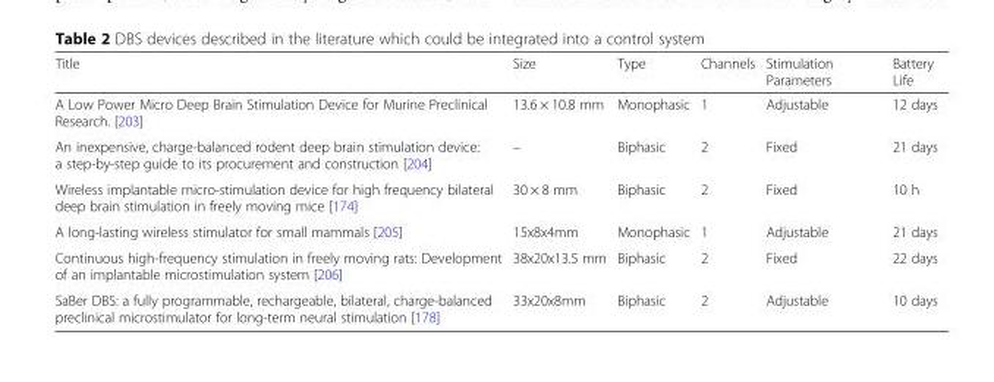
<table><thead><tr><td>Title</td><td>Size</td><td>Type</td><td>Channels</td><td>Stimulation Parameters</td><td>Battery Life</td></tr></thead><tbody><tr><td>A Low Power Micro Deep Brain Stimulation Device for Murine Preclinical Research. [203]</td><td>13.6 × 10.8 mm</td><td>Monophasic</td><td>1</td><td>Adjustable</td><td>12 days</td></tr><tr><td>An inexpensive, charge-balanced rodent deep brain stimulation device: a step-by-step guide to its procurement and construction [204]</td><td>–</td><td>Biphasic</td><td>2</td><td>Fixed</td><td>21 days</td></tr><tr><td>Wireless implantable micro-stimulation device for high frequency bilateral deep brain stimulation in freely moving mice [174]</td><td>30 × 8 mm</td><td>Biphasic</td><td>2</td><td>Fixed</td><td>10 h</td></tr><tr><td>A long-lasting wireless stimulator for small mammals [205]</td><td>15x8x4mm</td><td>Monophasic</td><td>1</td><td>Adjustable</td><td>21 days</td></tr><tr><td>Continuous high-frequency stimulation in freely moving rats: Development of an implantable microstimulation system [206]</td><td>38x20x13.5 mm</td><td>Biphasic</td><td>2</td><td>Fixed</td><td>22 days</td></tr><tr><td>SaBer DBS: a fully programmable, rechargeable, bilateral, charge-balanced preclinical microstimulator for long-term neural stimulation [178]</td><td>33x20x8mm</td><td>Biphasic</td><td>2</td><td>Adjustable</td><td>10 days</td></tr></tbody></table>